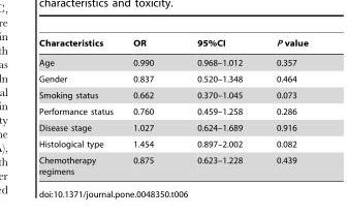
<table><thead><tr><td>Characteristics</td><td>OR</td><td>95%CI</td><td>P value</td></tr></thead><tbody><tr><td>Age</td><td>0.990</td><td>0.968–1.012</td><td>0.357</td></tr><tr><td>Gender</td><td>0.837</td><td>0.520–1.348</td><td>0.464</td></tr><tr><td>Smoking status</td><td>0.662</td><td>0.370–1.045</td><td>0.073</td></tr><tr><td>Performance status</td><td>0.760</td><td>0.459–1.258</td><td>0.286</td></tr><tr><td>Disease stage</td><td>1.027</td><td>0.624–1.689</td><td>0.916</td></tr><tr><td>Histological type</td><td>1.454</td><td>0.897–2.002</td><td>0.082</td></tr><tr><td>Chemotherapy regimens</td><td>0.875</td><td>0.623–1.228</td><td>0.439</td></tr></tbody></table>